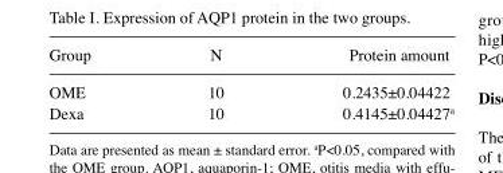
<table><thead><tr><td>Group</td><td>N</td><td>Protein amount</td></tr></thead><tbody><tr><td>OME</td><td>10</td><td>0.2435±0.04422</td></tr><tr><td>Dexa</td><td>10</td><td>0.4145±0.04427<sup>a</sup></td></tr></tbody></table>